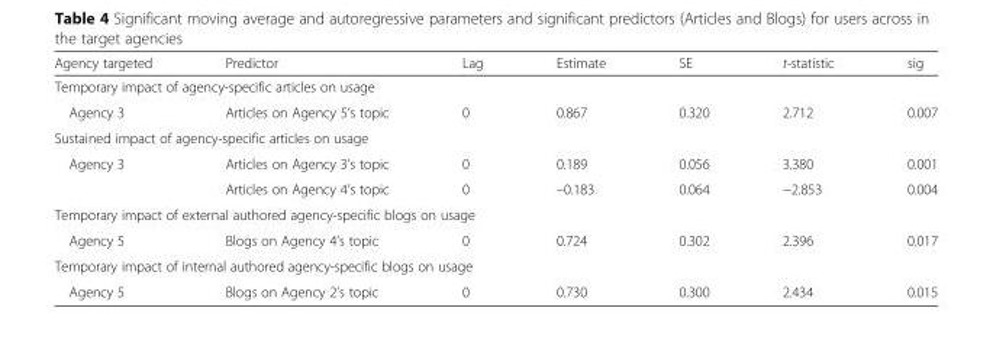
<table><thead><tr><td>Agency targeted</td><td>Predictor</td><td>Lag</td><td>Estimate</td><td>SE</td><td>t-statistic</td><td>sig</td></tr></thead><tbody><tr><td colspan="7">Temporary impact of agency-specific articles on usage</td></tr><tr><td>Agency 3</td><td>Articles on Agency 5’s topic</td><td>0</td><td>0.867</td><td>0.320</td><td>2.712</td><td>0.007</td></tr><tr><td colspan="7">Sustained impact of agency-specific articles on usage</td></tr><tr><td rowspan="2">Agency 3</td><td>Articles on Agency 3’s topic</td><td>0</td><td>0.189</td><td>0.056</td><td>3.380</td><td>0.001</td></tr><tr><td>Articles on Agency 4’s topic</td><td>0</td><td>–0.183</td><td>0.064</td><td>−2.853</td><td>0.004</td></tr><tr><td colspan="7">Temporary impact of external authored agency-specific blogs on usage</td></tr><tr><td>Agency 5</td><td>Blogs on Agency 4’s topic</td><td>0</td><td>0.724</td><td>0.302</td><td>2.396</td><td>0.017</td></tr><tr><td colspan="7">Temporary impact of internal authored agency-specific blogs on usage</td></tr><tr><td>Agency 5</td><td>Blogs on Agency 2’s topic</td><td>0</td><td>0.730</td><td>0.300</td><td>2.434</td><td>0.015</td></tr></tbody></table>